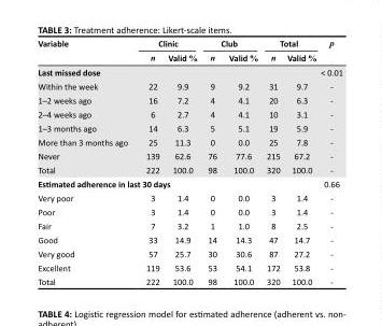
<table><thead><tr><td rowspan="2">Variable</td><td colspan="2">Clinic</td><td colspan="2">Club</td><td colspan="2">Total</td><td rowspan="2">p</td></tr><tr><td>n</td><td>Valid %</td><td>n</td><td>Valid %</td><td>n</td><td>Valid %</td></tr></thead><tbody><tr><td colspan="7">Last missed dose</td><td>&lt; 0.01</td></tr><tr><td>Within the week</td><td>22</td><td>9.9</td><td>9</td><td>9.2</td><td>31</td><td>9.7</td><td>-</td></tr><tr><td>1–2 weeks ago</td><td>16</td><td>7.2</td><td>4</td><td>4.1</td><td>20</td><td>6.3</td><td>-</td></tr><tr><td>2–4 weeks ago</td><td>6</td><td>2.7</td><td>4</td><td>4.1</td><td>10</td><td>3.1</td><td>-</td></tr><tr><td>1–3 months ago</td><td>14</td><td>6.3</td><td>5</td><td>5.1</td><td>19</td><td>5.9</td><td>-</td></tr><tr><td>More than 3 months ago</td><td>25</td><td>11.3</td><td>0</td><td>0.0</td><td>25</td><td>7.8</td><td>-</td></tr><tr><td>Never</td><td>139</td><td>62.6</td><td>76</td><td>77.6</td><td>215</td><td>67.2</td><td>-</td></tr><tr><td>Total</td><td>222</td><td>100.0</td><td>98</td><td>100.0</td><td>320</td><td>100.0</td><td>-</td></tr><tr><td colspan="7">Estimated adherence in last 30 days</td><td>0.66</td></tr><tr><td>Very poor</td><td>3</td><td>1.4</td><td>0</td><td>0.0</td><td>3</td><td>1.4</td><td>-</td></tr><tr><td>Poor</td><td>3</td><td>1.4</td><td>0</td><td>0.0</td><td>3</td><td>1.4</td><td>-</td></tr><tr><td>Fair</td><td>7</td><td>3.2</td><td>1</td><td>1.0</td><td>8</td><td>2.5</td><td>-</td></tr><tr><td>Good</td><td>33</td><td>14.9</td><td>14</td><td>14.3</td><td>47</td><td>14.7</td><td>-</td></tr><tr><td>Very good</td><td>57</td><td>25.7</td><td>30</td><td>30.6</td><td>87</td><td>27.2</td><td>-</td></tr><tr><td>Excellent</td><td>119</td><td>53.6</td><td>53</td><td>54.1</td><td>172</td><td>53.8</td><td>-</td></tr><tr><td>Total</td><td>222</td><td>100.0</td><td>98</td><td>100.0</td><td>320</td><td>100.0</td><td>-</td></tr></tbody></table>